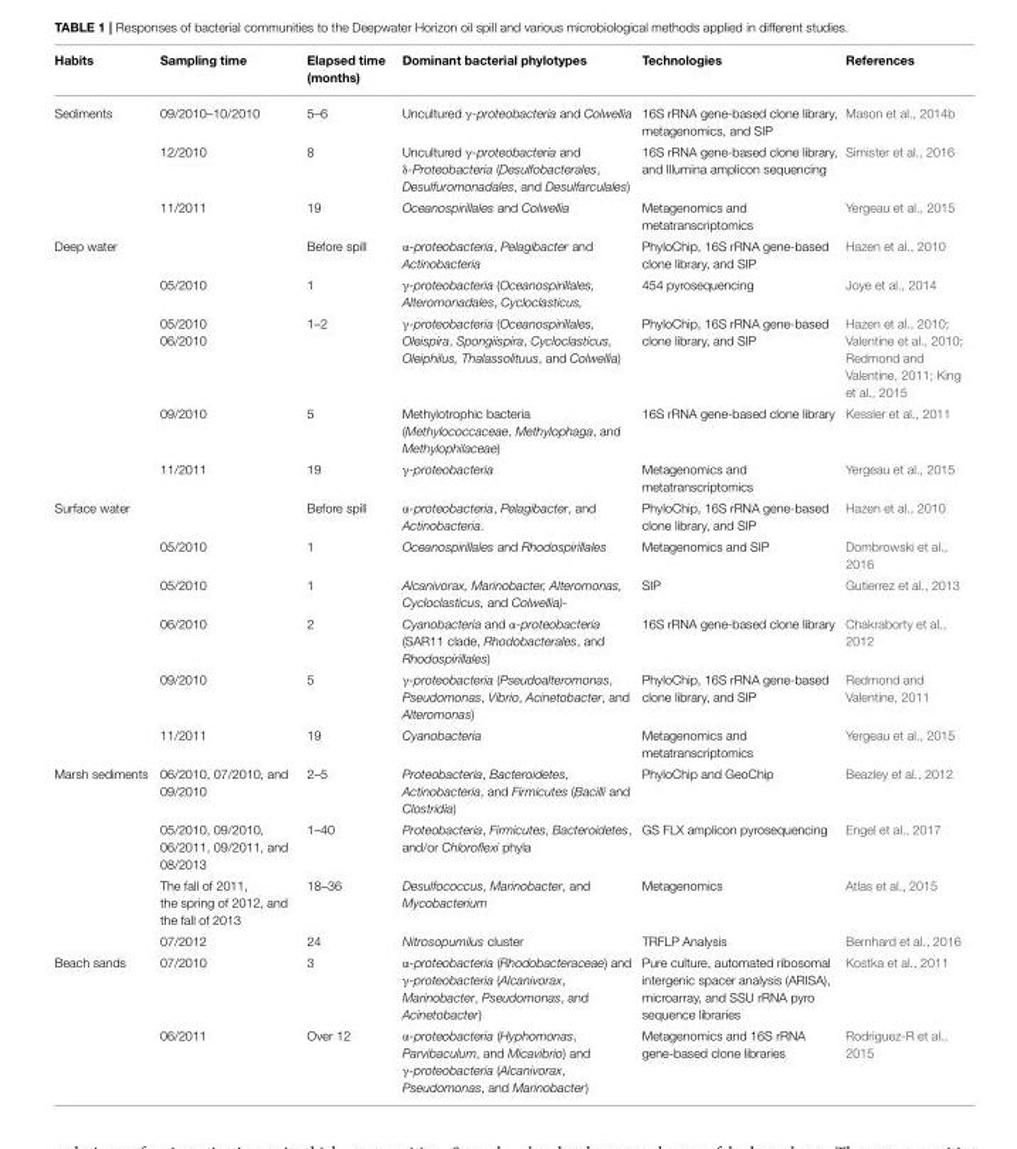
<table><thead><tr><td>Habits</td><td>Sampling time</td><td>Elapsed time (months)</td><td>Dominant bacterial phylotypes</td><td>Technologies</td><td>References</td></tr></thead><tbody><tr><td rowspan="3">Sediments</td><td>09/2010–10/2010</td><td>5–6</td><td>Uncultured γ-proteobacteria and Colwellia</td><td>16S rRNA gene-based clone library, metagenomics, and SIP</td><td>Mason et al., 2014b</td></tr><tr><td>12/2010</td><td>8</td><td>Uncultured γ-proteobacteria and δ-Proteobacteria (Desulfobacterales, Desulfuromonadales, and Desulfarculales)</td><td>16S rRNA gene-based clone library, and Illumina amplicon sequencing</td><td>Simister et al., 2016</td></tr><tr><td>11/2011</td><td>19</td><td>Oceanospirillales and Colwellia</td><td>Metagenomics and metatranscriptomics</td><td>Yergeau et al., 2015</td></tr><tr><td rowspan="5">Deep water</td><td></td><td>Before spill</td><td>α-proteobacteria, Pelagibacter and Actinobacteria</td><td>PhyloChip, 16S rRNA gene-based clone library, and SIP</td><td>Hazen et al., 2010</td></tr><tr><td>05/2010</td><td>1</td><td>γ-proteobacteria (Oceanospirillales, Alteromonadales, Cycloclasticus,</td><td>454 pyrosequencing</td><td>Joye et al., 2014</td></tr><tr><td>05/2010 06/2010</td><td>1–2</td><td>γ-proteobacteria (Oceanospirillales, Oleispira, Spongiispira, Cycloclasticus, Oleiphilus, Thalassolituus, and Colwellia)</td><td>PhyloChip, 16S rRNA gene-based clone library, and SIP</td><td>Hazen et al., 2010; Valentine et al., 2010; Redmond and Valentine, 2011; King et al., 2015</td></tr><tr><td>09/2010</td><td>5</td><td>Methylotrophic bacteria (Methylococcaceae, Methylophaga, and Methylophilaceae)</td><td>16S rRNA gene-based clone library</td><td>Kessler et al., 2011</td></tr><tr><td>11/2011</td><td>19</td><td>γ-proteobacteria</td><td>Metagenomics and metatranscriptomics</td><td>Yergeau et al., 2015</td></tr><tr><td rowspan="6">Surface water</td><td></td><td>Before spill</td><td>α-proteobacteria, Pelagibacter, and Actinobacteria.</td><td>PhyloChip, 16S rRNA gene-based clone library, and SIP</td><td>Hazen et al., 2010</td></tr><tr><td>05/2010</td><td>1</td><td>Oceanospirillales and Rhodospirillales</td><td>Metagenomics and SIP</td><td>Dombrowski et al., 2016</td></tr><tr><td>05/2010</td><td>1</td><td>Alcanivorax, Marinobacter, Alteromonas, Cycloclasticus, and Colwellia)-</td><td>SIP</td><td>Gutierrez et al., 2013</td></tr><tr><td>06/2010</td><td>2</td><td>Cyanobacteria and α-proteobacteria (SAR11 clade, Rhodobacterales, and Rhodospirillales)</td><td>16S rRNA gene-based clone library</td><td>Chakraborty et al., 2012</td></tr><tr><td>09/2010</td><td>5</td><td>γ-proteobacteria (Pseudoalteromonas, Pseudomonas, Vibrio, Acinetobacter, and Alteromonas)</td><td>PhyloChip, 16S rRNA gene-based clone library, and SIP</td><td>Redmond and Valentine, 2011</td></tr><tr><td>11/2011</td><td>19</td><td>Cyanobacteria</td><td>Metagenomics and metatranscriptomics</td><td>Yergeau et al., 2015</td></tr><tr><td rowspan="4">Marsh sediments</td><td>06/2010, 07/2010, and 09/2010</td><td>2–5</td><td>Proteobacteria, Bacteroidetes, Actinobacteria, and Firmicutes (Bacilli and Clostridia)</td><td>PhyloChip and GeoChip</td><td>Beazley et al., 2012</td></tr><tr><td>05/2010, 09/2010, 06/2011, 09/2011, and 08/2013</td><td>1–40</td><td>Proteobacteria, Firmicutes, Bacteroidetes, and/or Chloroflexi phyla</td><td>GS FLX amplicon pyrosequencing</td><td>Engel et al., 2017</td></tr><tr><td>The fall of 2011, the spring of 2012, and the fall of 2013</td><td>18–36</td><td>Desulfococcus, Marinobacter, and Mycobacterium</td><td>Metagenomics</td><td>Atlas et al., 2015</td></tr><tr><td>07/2012</td><td>24</td><td>Nitrosopumilus cluster</td><td>TRFLP Analysis</td><td>Bernhard et al., 2016</td></tr><tr><td rowspan="2">Beach sands</td><td>07/2010</td><td>3</td><td>α-proteobacteria (Rhodobacteraceae) and γ-proteobacteria (Alcanivorax, Marinobacter, Pseudomonas, and Acinetobacter)</td><td>Pure culture, automated ribosomal intergenic spacer analysis (ARISA), microarray, and SSU rRNA pyro sequence libraries</td><td>Kostka et al., 2011</td></tr><tr><td>06/2011</td><td>Over 12</td><td>α-proteobacteria (Hyphomonas, Parvibaculum, and Micavibrio) and γ-proteobacteria (Alcanivorax, Pseudomonas, and Marinobacter)</td><td>Metagenomics and 16S rRNA gene-based clone libraries</td><td>Rodriguez-R et al., 2015</td></tr></tbody></table>